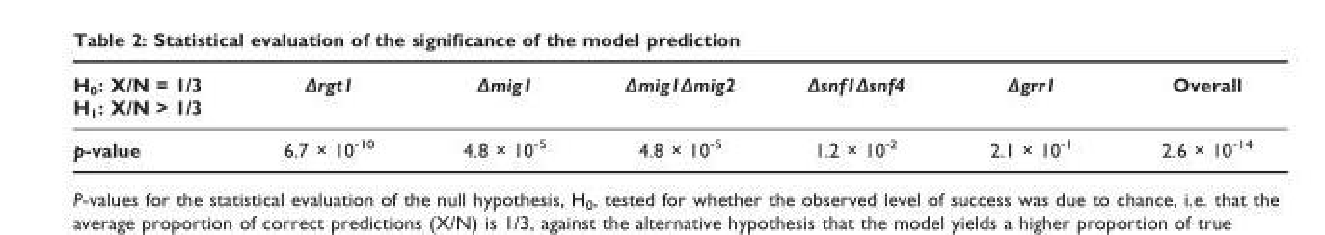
<table><thead><tr><td>H<sub>0</sub>: X/N = 1/3 H<sub>1</sub>: X/N &gt; 1/3</td><td>Δrgt1</td><td>Δmig1</td><td>Δmig1Δmig2</td><td>Δsnf1Δsnf4</td><td>Δgrr1</td><td>Overall</td></tr></thead><tbody><tr><td>p-value</td><td>6.7 × 10<sup>-10</sup></td><td>4.8 × 10<sup>-5</sup></td><td>4.8 × 10<sup>-5</sup></td><td>1.2 × 10<sup>-2</sup></td><td>2.1 × 10<sup>-1</sup></td><td>2.6 × 10<sup>-14</sup></td></tr></tbody></table>